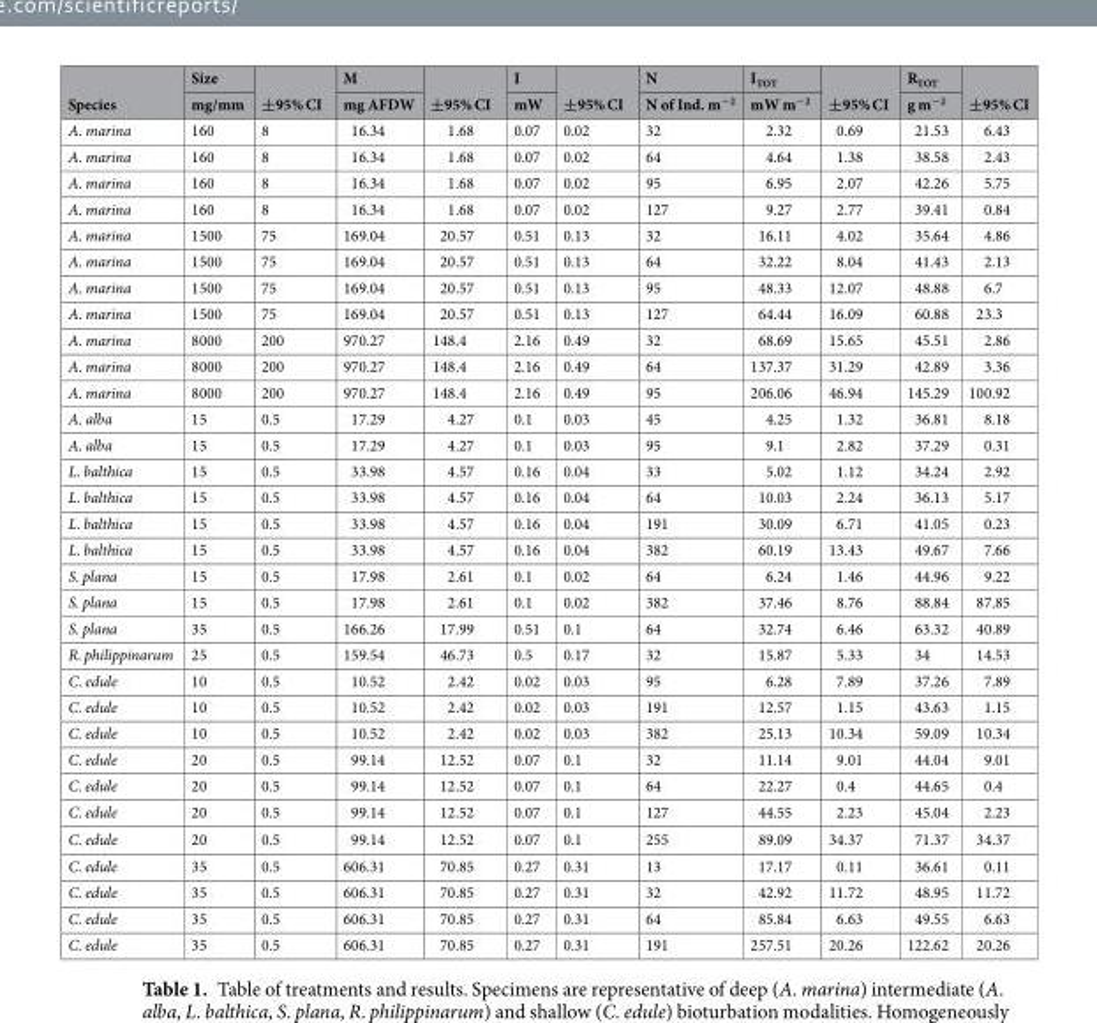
<table><thead><tr><td rowspan="2">Species</td><td rowspan="2">Size mg/mm</td><td rowspan="2">±95% CI</td><td rowspan="2">M mg AFDW</td><td rowspan="2">±95% CI</td><td rowspan="2">I mW</td><td rowspan="2">±95% CI</td><td rowspan="2">N N of Ind. m<sup>−2</sup></td><td rowspan="2">I<sub>TOT</sub> mW m<sup>−2</sup></td><td rowspan="2">±95% CI</td><td rowspan="2">R<sub>TOT</sub> g m<sup>−2</sup></td><td rowspan="2">±95% CI</td></tr><tr></tr></thead><tbody><tr><td>A. marina</td><td>160</td><td>8</td><td>16.34</td><td>1.68</td><td>0.07</td><td>0.02</td><td>32</td><td>2.32</td><td>0.69</td><td>21.53</td><td>6.43</td></tr><tr><td>A. marina</td><td>160</td><td>8</td><td>16.34</td><td>1.68</td><td>0.07</td><td>0.02</td><td>64</td><td>4.64</td><td>1.38</td><td>38.58</td><td>2.43</td></tr><tr><td>A. marina</td><td>160</td><td>8</td><td>16.34</td><td>1.68</td><td>0.07</td><td>0.02</td><td>95</td><td>6.95</td><td>2.07</td><td>42.26</td><td>5.75</td></tr><tr><td>A. marina</td><td>160</td><td>8</td><td>16.34</td><td>1.68</td><td>0.07</td><td>0.02</td><td>127</td><td>9.27</td><td>2.77</td><td>39.41</td><td>0.84</td></tr><tr><td>A. marina</td><td>1500</td><td>75</td><td>169.04</td><td>20.57</td><td>0.51</td><td>0.13</td><td>32</td><td>16.11</td><td>4.02</td><td>35.64</td><td>4.86</td></tr><tr><td>A. marina</td><td>1500</td><td>75</td><td>169.04</td><td>20.57</td><td>0.51</td><td>0.13</td><td>64</td><td>32.22</td><td>8.04</td><td>41.43</td><td>2.13</td></tr><tr><td>A. marina</td><td>1500</td><td>75</td><td>169.04</td><td>20.57</td><td>0.51</td><td>0.13</td><td>95</td><td>48.33</td><td>12.07</td><td>48.88</td><td>6.7</td></tr><tr><td>A. marina</td><td>1500</td><td>75</td><td>169.04</td><td>20.57</td><td>0.51</td><td>0.13</td><td>127</td><td>64.44</td><td>16.09</td><td>60.88</td><td>23.3</td></tr><tr><td>A. marina</td><td>8000</td><td>200</td><td>970.27</td><td>148.4</td><td>2.16</td><td>0.49</td><td>32</td><td>68.69</td><td>15.65</td><td>45.51</td><td>2.86</td></tr><tr><td>A. marina</td><td>8000</td><td>200</td><td>970.27</td><td>148.4</td><td>2.16</td><td>0.49</td><td>64</td><td>137.37</td><td>31.29</td><td>42.89</td><td>3.36</td></tr><tr><td>A. marina</td><td>8000</td><td>200</td><td>970.27</td><td>148.4</td><td>2.16</td><td>0.49</td><td>95</td><td>206.06</td><td>46.94</td><td>145.29</td><td>100.92</td></tr><tr><td>A. alba</td><td>15</td><td>0.5</td><td>17.29</td><td>4.27</td><td>0.1</td><td>0.03</td><td>45</td><td>4.25</td><td>1.32</td><td>36.81</td><td>8.18</td></tr><tr><td>A. alba</td><td>15</td><td>0.5</td><td>17.29</td><td>4.27</td><td>0.1</td><td>0.03</td><td>95</td><td>9.1</td><td>2.82</td><td>37.29</td><td>0.31</td></tr><tr><td>L. balthica</td><td>15</td><td>0.5</td><td>33.98</td><td>4.57</td><td>0.16</td><td>0.04</td><td>33</td><td>5.02</td><td>1.12</td><td>34.24</td><td>2.92</td></tr><tr><td>L. balthica</td><td>15</td><td>0.5</td><td>33.98</td><td>4.57</td><td>0.16</td><td>0.04</td><td>64</td><td>10.03</td><td>2.24</td><td>36.13</td><td>5.17</td></tr><tr><td>L. balthica</td><td>15</td><td>0.5</td><td>33.98</td><td>4.57</td><td>0.16</td><td>0.04</td><td>191</td><td>30.09</td><td>6.71</td><td>41.05</td><td>0.23</td></tr><tr><td>L. balthica</td><td>15</td><td>0.5</td><td>33.98</td><td>4.57</td><td>0.16</td><td>0.04</td><td>382</td><td>60.19</td><td>13.43</td><td>49.67</td><td>7.66</td></tr><tr><td>S. plana</td><td>15</td><td>0.5</td><td>17.98</td><td>2.61</td><td>0.1</td><td>0.02</td><td>64</td><td>6.24</td><td>1.46</td><td>44.96</td><td>9.22</td></tr><tr><td>S. plana</td><td>15</td><td>0.5</td><td>17.98</td><td>2.61</td><td>0.1</td><td>0.02</td><td>382</td><td>37.46</td><td>8.76</td><td>88.84</td><td>87.85</td></tr><tr><td>S. plana</td><td>35</td><td>0.5</td><td>166.26</td><td>17.99</td><td>0.51</td><td>0.1</td><td>64</td><td>32.74</td><td>6.46</td><td>63.32</td><td>40.89</td></tr><tr><td>R. philippinarum</td><td>25</td><td>0.5</td><td>159.54</td><td>46.73</td><td>0.5</td><td>0.17</td><td>32</td><td>15.87</td><td>5.33</td><td>34</td><td>14.53</td></tr><tr><td>C. edule</td><td>10</td><td>0.5</td><td>10.52</td><td>2.42</td><td>0.02</td><td>0.03</td><td>95</td><td>6.28</td><td>7.89</td><td>37.26</td><td>7.89</td></tr><tr><td>C. edule</td><td>10</td><td>0.5</td><td>10.52</td><td>2.42</td><td>0.02</td><td>0.03</td><td>191</td><td>12.57</td><td>1.15</td><td>43.63</td><td>1.15</td></tr><tr><td>C. edule</td><td>10</td><td>0.5</td><td>10.52</td><td>2.42</td><td>0.02</td><td>0.03</td><td>382</td><td>25.13</td><td>10.34</td><td>59.09</td><td>10.34</td></tr><tr><td>C. edule</td><td>20</td><td>0.5</td><td>99.14</td><td>12.52</td><td>0.07</td><td>0.1</td><td>32</td><td>11.14</td><td>9.01</td><td>44.04</td><td>9.01</td></tr><tr><td>C. edule</td><td>20</td><td>0.5</td><td>99.14</td><td>12.52</td><td>0.07</td><td>0.1</td><td>64</td><td>22.27</td><td>0.4</td><td>44.65</td><td>0.4</td></tr><tr><td>C. edule</td><td>20</td><td>0.5</td><td>99.14</td><td>12.52</td><td>0.07</td><td>0.1</td><td>127</td><td>44.55</td><td>2.23</td><td>45.04</td><td>2.23</td></tr><tr><td>C. edule</td><td>20</td><td>0.5</td><td>99.14</td><td>12.52</td><td>0.07</td><td>0.1</td><td>255</td><td>89.09</td><td>34.37</td><td>71.37</td><td>34.37</td></tr><tr><td>C. edule</td><td>35</td><td>0.5</td><td>606.31</td><td>70.85</td><td>0.27</td><td>0.31</td><td>13</td><td>17.17</td><td>0.11</td><td>36.61</td><td>0.11</td></tr><tr><td>C. edule</td><td>35</td><td>0.5</td><td>606.31</td><td>70.85</td><td>0.27</td><td>0.31</td><td>32</td><td>42.92</td><td>11.72</td><td>48.95</td><td>11.72</td></tr><tr><td>C. edule</td><td>35</td><td>0.5</td><td>606.31</td><td>70.85</td><td>0.27</td><td>0.31</td><td>64</td><td>85.84</td><td>6.63</td><td>49.55</td><td>6.63</td></tr><tr><td>C. edule</td><td>35</td><td>0.5</td><td>606.31</td><td>70.85</td><td>0.27</td><td>0.31</td><td>191</td><td>257.51</td><td>20.26</td><td>122.62</td><td>20.26</td></tr></tbody></table>